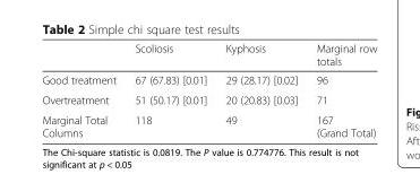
<table><thead><tr><td></td><td>Scoliosis</td><td>Kyphosis</td><td>Marginal row totals</td></tr></thead><tbody><tr><td>Good treatment</td><td>67 (67.83) [0.01]</td><td>29 (28.17) [0.02]</td><td>96</td></tr><tr><td>Overtreatment</td><td>51 (50.17) [0.01]</td><td>20 (20.83) [0.03]</td><td>71</td></tr><tr><td>Marginal Total Columns</td><td>118</td><td>49</td><td>167 (Grand Total)</td></tr></tbody></table>